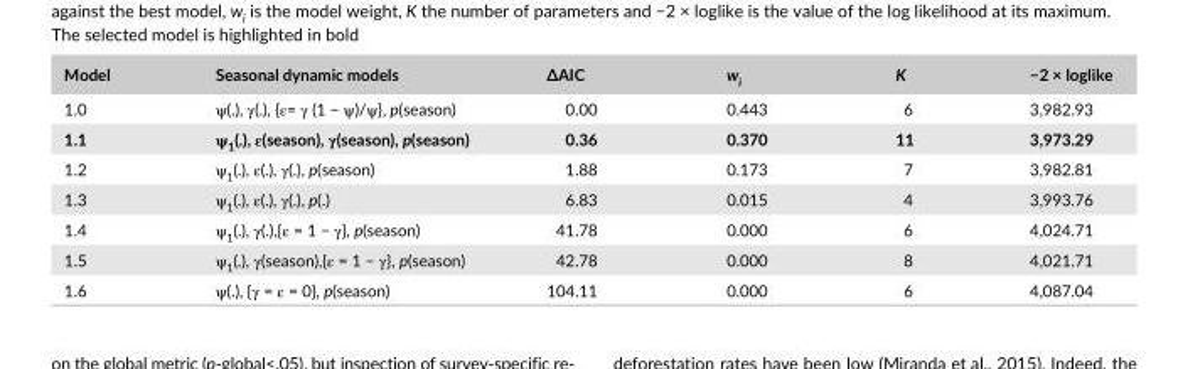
<table><thead><tr><td>Model</td><td>Seasonal dynamic models</td><td>∆AIC</td><td>w<sub>i</sub></td><td>K</td><td>−2 × loglike</td></tr></thead><tbody><tr><td>1.0</td><td>ψ(.), γ(.), {ε= γ (1 − ψ)/ψ}, p(season)</td><td>0.00</td><td>0.443</td><td>6</td><td>3,982.93</td></tr><tr><td>1.1</td><td>ψ<sub>1</sub>(.), ε(season), γ(season), p(season)</td><td>0.36</td><td>0.370</td><td>11</td><td>3,973.29</td></tr><tr><td>1.2</td><td>ψ<sub>1</sub>(.), ε(.), γ(.), p(season)</td><td>1.88</td><td>0.173</td><td>7</td><td>3,982.81</td></tr><tr><td>1.3</td><td>ψ<sub>1</sub>(.), ε(.), γ(.), p(.)</td><td>6.83</td><td>0.015</td><td>4</td><td>3,993.76</td></tr><tr><td>1.4</td><td>ψ<sub>1</sub>(.), γ(.),{ε = 1 − γ}, p(season)</td><td>41.78</td><td>0.000</td><td>6</td><td>4,024.71</td></tr><tr><td>1.5</td><td>ψ<sub>1</sub>(.), γ(season),{ε = 1 − γ}, p(season)</td><td>42.78</td><td>0.000</td><td>8</td><td>4,021.71</td></tr><tr><td>1.6</td><td>ψ(.), {γ = ε = 0}, p(season)</td><td>104.11</td><td>0.000</td><td>6</td><td>4,087.04</td></tr></tbody></table>